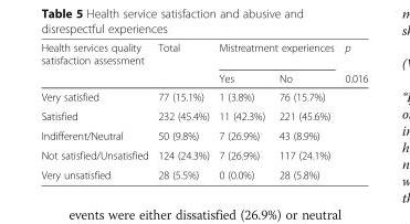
<table><thead><tr><td rowspan="2">Health services quality satisfaction assessment</td><td rowspan="2">Total</td><td colspan="2">Mistreatment experiences</td><td rowspan="2">p 0.016</td></tr><tr><td>Yes</td><td>No</td></tr></thead><tbody><tr><td>Very satisfied</td><td>77 (15.1%)</td><td>1 (3.8%)</td><td>76 (15.7%)</td><td></td></tr><tr><td>Satisfied</td><td>232 (45.4%)</td><td>11 (42.3%)</td><td>221 (45.6%)</td><td></td></tr><tr><td>Indifferent/Neutral</td><td>50 (9.8%)</td><td>7 (26.9%)</td><td>43 (8.9%)</td><td></td></tr><tr><td>Not satisfied/Unsatisfied</td><td>124 (24.3%)</td><td>7 (26.9%)</td><td>117 (24.1%)</td><td></td></tr><tr><td>Very unsatisfied</td><td>28 (5.5%)</td><td>0 (0.0%)</td><td>28 (5.8%)</td><td></td></tr></tbody></table>